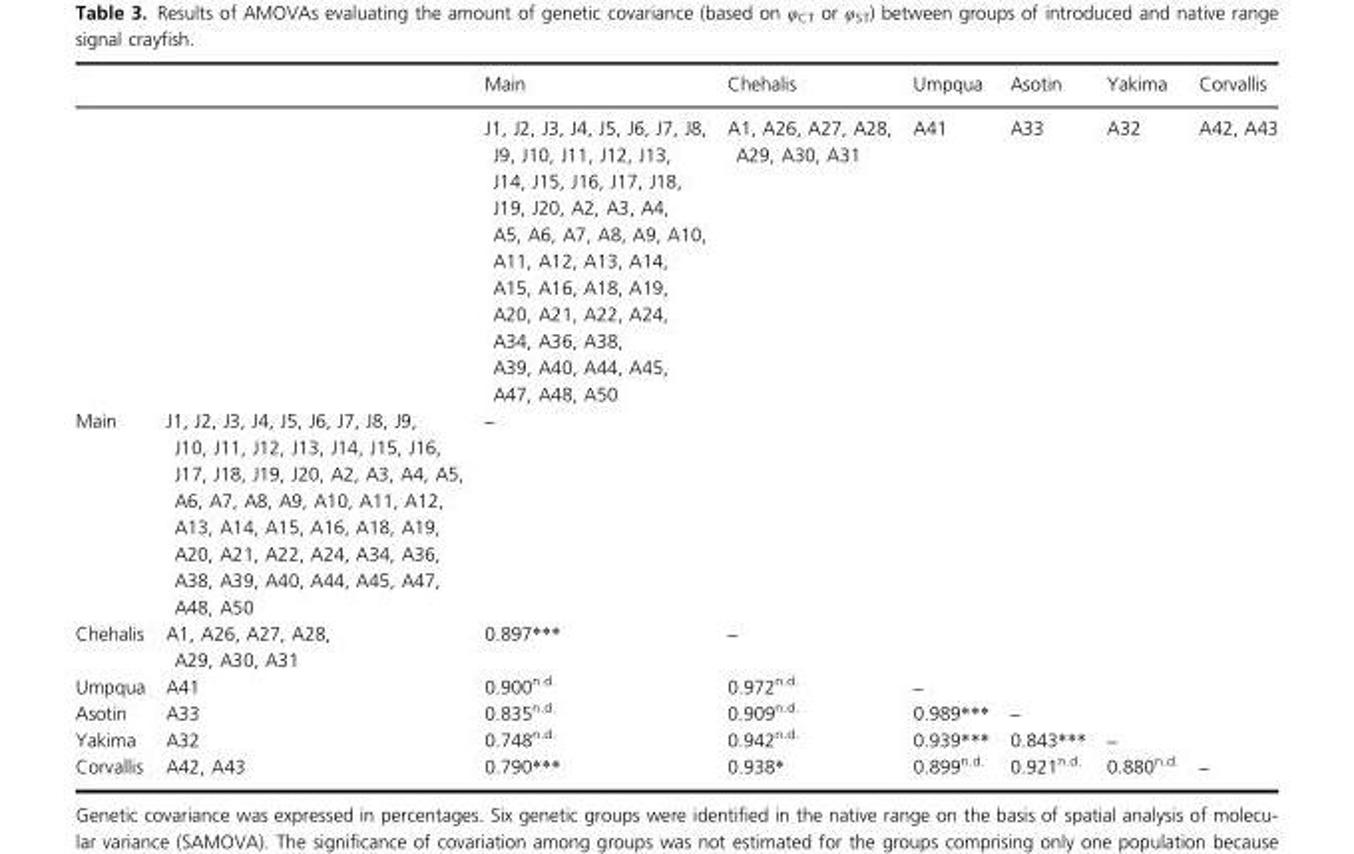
<table><thead><tr><td></td><td></td><td>Main</td><td>Chehalis</td><td>Umpqua</td><td>Asotin</td><td>Yakima</td><td>Corvallis</td></tr></thead><tbody><tr><td></td><td></td><td>J1, J2, J3, J4, J5, J6, J7, J8, J9, J10, J11, J12, J13, J14, J15, J16, J17, J18, J19, J20, A2, A3, A4, A5, A6, A7, A8, A9, A10, A11, A12, A13, A14, A15, A16, A18, A19, A20, A21, A22, A24, A34, A36, A38, A39, A40, A44, A45, A47, A48, A50</td><td>A1, A26, A27, A28, A29, A30, A31</td><td>A41</td><td>A33</td><td>A32</td><td>A42, A43</td></tr><tr><td>Main</td><td>J1, J2, J3, J4, J5, J6, J7, J8, J9, J10, J11, J12, J13, J14, J15, J16, J17, J18, J19, J20, A2, A3, A4, A5, A6, A7, A8, A9, A10, A11, A12, A13, A14, A15, A16, A18, A19, A20, A21, A22, A24, A34, A36, A38, A39, A40, A44, A45, A47, A48, A50</td><td>–</td><td></td><td></td><td></td><td></td><td></td></tr><tr><td>Chehalis</td><td>A1, A26, A27, A28, A29, A30, A31</td><td>0.897***</td><td>–</td><td></td><td></td><td></td><td></td></tr><tr><td>Umpqua</td><td>A41</td><td>0.900n.d.</td><td>0.972n.d.</td><td>–</td><td></td><td></td><td></td></tr><tr><td>Asotin</td><td>A33</td><td>0.835n.d.</td><td>0.909n.d.</td><td>0.989***</td><td>–</td><td></td><td></td></tr><tr><td>Yakima</td><td>A32</td><td>0.748n.d.</td><td>0.942n.d.</td><td>0.939***</td><td>0.843***</td><td>–</td><td></td></tr><tr><td>Corvallis</td><td>A42, A43</td><td>0.790***</td><td>0.938*</td><td>0.899n.d.</td><td>0.921n.d.</td><td>0.880n.d.</td><td>–</td></tr></tbody></table>